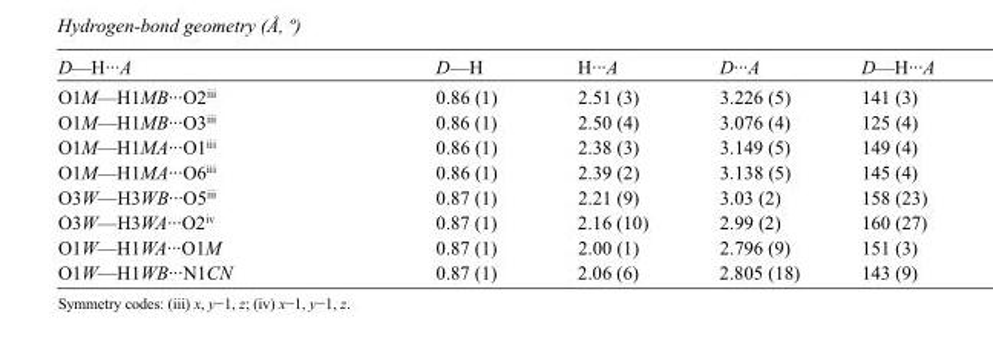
<table><tbody><tr><td>D—H···A</td><td>D—H</td><td>H···A</td><td>D···A</td><td>D—H···A</td></tr><tr><td>O1M—H1MB···O2<sup>iii</sup></td><td>0.86 (1)</td><td>2.51 (3)</td><td>3.226 (5)</td><td>141 (3)</td></tr><tr><td>O1M—H1MB···O3<sup>iii</sup></td><td>0.86 (1)</td><td>2.50 (4)</td><td>3.076 (4)</td><td>125 (4)</td></tr><tr><td>O1M—H1MA···O1<sup>iii</sup></td><td>0.86 (1)</td><td>2.38 (3)</td><td>3.149 (5)</td><td>149 (4)</td></tr><tr><td>O1M—H1MA···O6<sup>iii</sup></td><td>0.86 (1)</td><td>2.39 (2)</td><td>3.138 (5)</td><td>145 (4)</td></tr><tr><td>O3W—H3WB···O5<sup>iii</sup></td><td>0.87 (1)</td><td>2.21 (9)</td><td>3.03 (2)</td><td>158 (23)</td></tr><tr><td>O3W—H3WA···O2<sup>iv</sup></td><td>0.87 (1)</td><td>2.16 (10)</td><td>2.99 (2)</td><td>160 (27)</td></tr><tr><td>O1W—H1WA···O1M</td><td>0.87 (1)</td><td>2.00 (1)</td><td>2.796 (9)</td><td>151 (3)</td></tr><tr><td>O1W—H1WB···N1CN</td><td>0.87 (1)</td><td>2.06 (6)</td><td>2.805 (18)</td><td>143 (9)</td></tr></tbody></table>